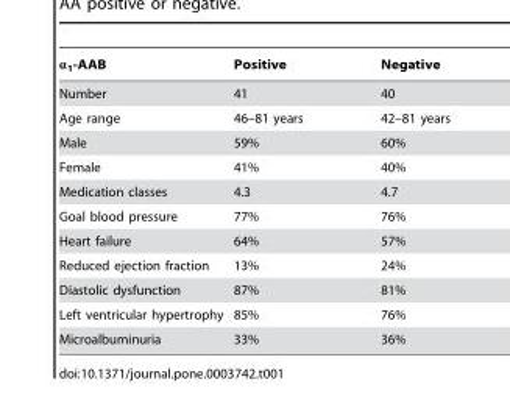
<table><thead><tr><td>α<sub>1</sub>-AAB</td><td>Positive</td><td>Negative</td></tr></thead><tbody><tr><td>Number</td><td>41</td><td>40</td></tr><tr><td>Age range</td><td>46–81 years</td><td>42–81 years</td></tr><tr><td>Male</td><td>59%</td><td>60%</td></tr><tr><td>Female</td><td>41%</td><td>40%</td></tr><tr><td>Medication classes</td><td>4.3</td><td>4.7</td></tr><tr><td>Goal blood pressure</td><td>77%</td><td>76%</td></tr><tr><td>Heart failure</td><td>64%</td><td>57%</td></tr><tr><td>Reduced ejection fraction</td><td>13%</td><td>24%</td></tr><tr><td>Diastolic dysfunction</td><td>87%</td><td>81%</td></tr><tr><td>Left ventricular hypertrophy</td><td>85%</td><td>76%</td></tr><tr><td>Microalbuminuria</td><td>33%</td><td>36%</td></tr></tbody></table>